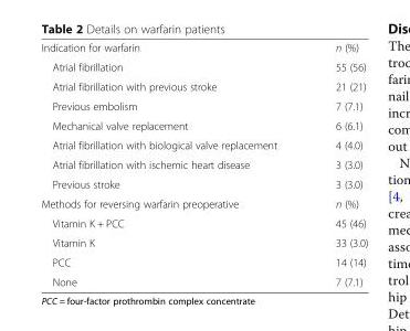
<table><tbody><tr><td>Indication for warfarin</td><td>n (%)</td></tr><tr><td>Atrial fibrillation</td><td>55 (56)</td></tr><tr><td>Atrial fibrillation with previous stroke</td><td>21 (21)</td></tr><tr><td>Previous embolism</td><td>7 (7.1)</td></tr><tr><td>Mechanical valve replacement</td><td>6 (6.1)</td></tr><tr><td>Atrial fibrillation with biological valve replacement</td><td>4 (4.0)</td></tr><tr><td>Atrial fibrillation with ischemic heart disease</td><td>3 (3.0)</td></tr><tr><td>Previous stroke</td><td>3 (3.0)</td></tr><tr><td>Methods for reversing warfarin preoperative</td><td>n (%)</td></tr><tr><td>Vitamin K + PCC</td><td>45 (46)</td></tr><tr><td>Vitamin K</td><td>33 (3.0)</td></tr><tr><td>PCC</td><td>14 (14)</td></tr><tr><td>None</td><td>7 (7.1)</td></tr></tbody></table>